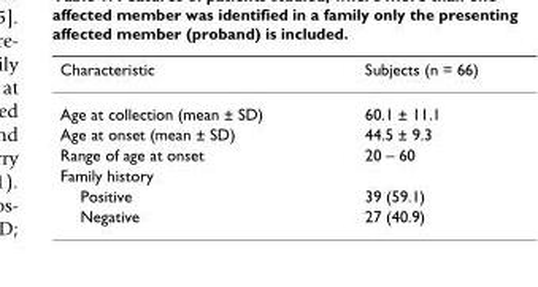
<table><thead><tr><td>Characteristic</td><td>Subjects (n = 66)</td></tr></thead><tbody><tr><td>Age at collection (mean ± SD)</td><td>60.1 ± 11.1</td></tr><tr><td>Age at onset (mean ± SD)</td><td>44.5 ± 9.3</td></tr><tr><td>Range of age at onset</td><td>20 – 60</td></tr><tr><td colspan="2">Family history</td></tr><tr><td>Positive</td><td>39 (59.1)</td></tr><tr><td>Negative</td><td>27 (40.9)</td></tr></tbody></table>